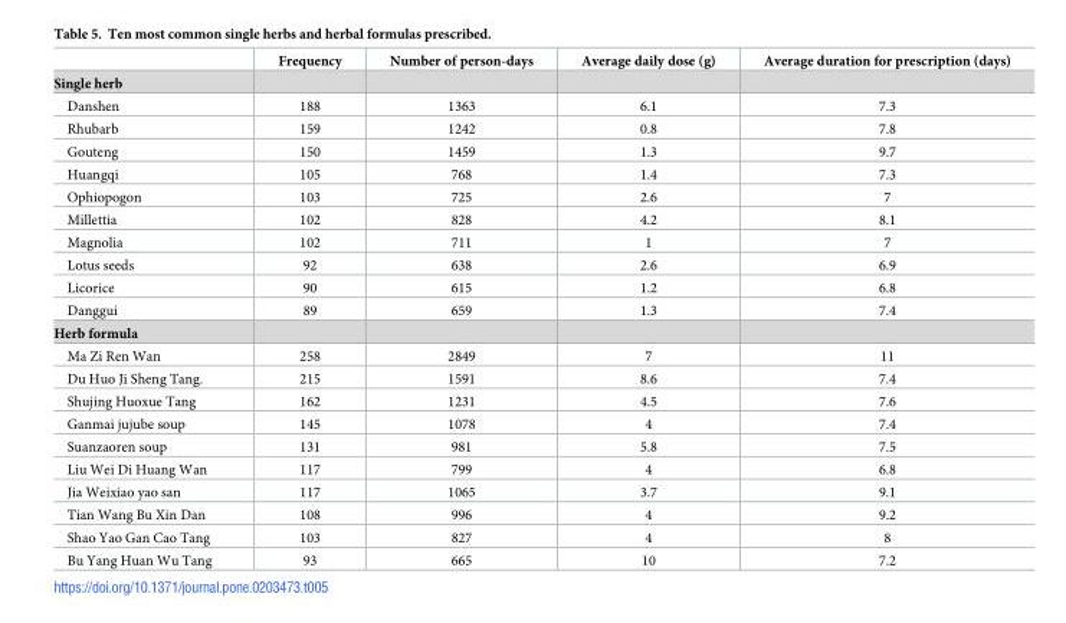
<table><thead><tr><td></td><td>Frequency</td><td>Number of person-days</td><td>Average daily dose (g)</td><td>Average duration for prescription (days)</td></tr></thead><tbody><tr><td colspan="5">Single herb</td></tr><tr><td>Danshen</td><td>188</td><td>1363</td><td>6.1</td><td>7.3</td></tr><tr><td>Rhubarb</td><td>159</td><td>1242</td><td>0.8</td><td>7.8</td></tr><tr><td>Gouteng</td><td>150</td><td>1459</td><td>1.3</td><td>9.7</td></tr><tr><td>Huangqi</td><td>105</td><td>768</td><td>1.4</td><td>7.3</td></tr><tr><td>Ophiopogon</td><td>103</td><td>725</td><td>2.6</td><td>7</td></tr><tr><td>Millettia</td><td>102</td><td>828</td><td>4.2</td><td>8.1</td></tr><tr><td>Magnolia</td><td>102</td><td>711</td><td>1</td><td>7</td></tr><tr><td>Lotus seeds</td><td>92</td><td>638</td><td>2.6</td><td>6.9</td></tr><tr><td>Licorice</td><td>90</td><td>615</td><td>1.2</td><td>6.8</td></tr><tr><td>Danggui</td><td>89</td><td>659</td><td>1.3</td><td>7.4</td></tr><tr><td colspan="5">Herb formula</td></tr><tr><td>Ma Zi Ren Wan</td><td>258</td><td>2849</td><td>7</td><td>11</td></tr><tr><td>Du Huo Ji Sheng Tang.</td><td>215</td><td>1591</td><td>8.6</td><td>7.4</td></tr><tr><td>Shujing Huoxue Tang</td><td>162</td><td>1231</td><td>4.5</td><td>7.6</td></tr><tr><td>Ganmai jujube soup</td><td>145</td><td>1078</td><td>4</td><td>7.4</td></tr><tr><td>Suanzaoren soup</td><td>131</td><td>981</td><td>5.8</td><td>7.5</td></tr><tr><td>Liu Wei Di Huang Wan</td><td>117</td><td>799</td><td>4</td><td>6.8</td></tr><tr><td>Jia Weixiao yao san</td><td>117</td><td>1065</td><td>3.7</td><td>9.1</td></tr><tr><td>Tian Wang Bu Xin Dan</td><td>108</td><td>996</td><td>4</td><td>9.2</td></tr><tr><td>Shao Yao Gan Cao Tang</td><td>103</td><td>827</td><td>4</td><td>8</td></tr><tr><td>Bu Yang Huan Wu Tang</td><td>93</td><td>665</td><td>10</td><td>7.2</td></tr></tbody></table>